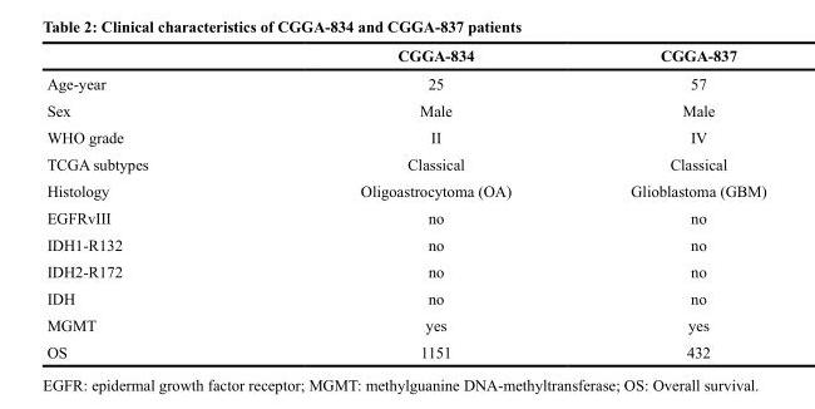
<table><thead><tr><td></td><td>CGGA-834</td><td>CGGA-837</td></tr></thead><tbody><tr><td>Age-year</td><td>25</td><td>57</td></tr><tr><td>Sex</td><td>Male</td><td>Male</td></tr><tr><td>WHO grade</td><td>II</td><td>IV</td></tr><tr><td>TCGA subtypes</td><td>Classical</td><td>Classical</td></tr><tr><td>Histology</td><td>Oligoastrocytoma (OA)</td><td>Glioblastoma (GBM)</td></tr><tr><td>EGFRvIII</td><td>no</td><td>no</td></tr><tr><td>IDH1-R132</td><td>no</td><td>no</td></tr><tr><td>IDH2-R172</td><td>no</td><td>no</td></tr><tr><td>IDH</td><td>no</td><td>no</td></tr><tr><td>MGMT</td><td>yes</td><td>yes</td></tr><tr><td>OS</td><td>1151</td><td>432</td></tr></tbody></table>